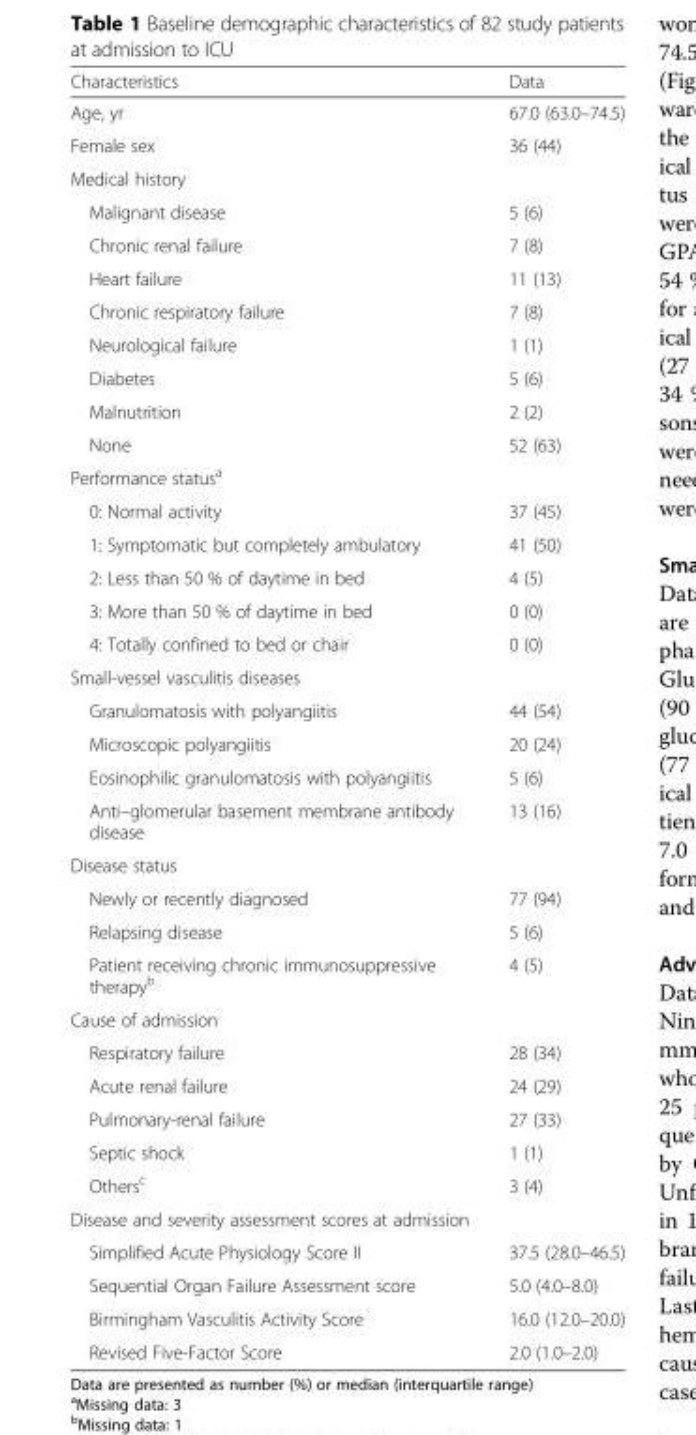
<table><thead><tr><td>Characteristics</td><td>Data</td></tr></thead><tbody><tr><td>Age, yr</td><td>67.0 (63.0–74.5)</td></tr><tr><td>Female sex</td><td>36 (44)</td></tr><tr><td colspan="2">Medical history</td></tr><tr><td>Malignant disease</td><td>5 (6)</td></tr><tr><td>Chronic renal failure</td><td>7 (8)</td></tr><tr><td>Heart failure</td><td>11 (13)</td></tr><tr><td>Chronic respiratory failure</td><td>7 (8)</td></tr><tr><td>Neurological failure</td><td>1 (1)</td></tr><tr><td>Diabetes</td><td>5 (6)</td></tr><tr><td>Malnutrition</td><td>2 (2)</td></tr><tr><td>None</td><td>52 (63)</td></tr><tr><td colspan="2">Performance status<sup>a</sup></td></tr><tr><td>0: Normal activity</td><td>37 (45)</td></tr><tr><td>1: Symptomatic but completely ambulatory</td><td>41 (50)</td></tr><tr><td>2: Less than 50 % of daytime in bed</td><td>4 (5)</td></tr><tr><td>3: More than 50 % of daytime in bed</td><td>0 (0)</td></tr><tr><td>4: Totally confined to bed or chair</td><td>0 (0)</td></tr><tr><td colspan="2">Small-vessel vasculitis diseases</td></tr><tr><td>Granulomatosis with polyangiitis</td><td>44 (54)</td></tr><tr><td>Microscopic polyangiitis</td><td>20 (24)</td></tr><tr><td>Eosinophilic granulomatosis with polyangiitis</td><td>5 (6)</td></tr><tr><td>Anti–glomerular basement membrane antibody disease</td><td>13 (16)</td></tr><tr><td colspan="2">Disease status</td></tr><tr><td>Newly or recently diagnosed</td><td>77 (94)</td></tr><tr><td>Relapsing disease</td><td>5 (6)</td></tr><tr><td>Patient receiving chronic immunosuppressive therapy<sup>b</sup></td><td>4 (5)</td></tr><tr><td colspan="2">Cause of admission</td></tr><tr><td>Respiratory failure</td><td>28 (34)</td></tr><tr><td>Acute renal failure</td><td>24 (29)</td></tr><tr><td>Pulmonary-renal failure</td><td>27 (33)</td></tr><tr><td>Septic shock</td><td>1 (1)</td></tr><tr><td>Others<sup>c</sup></td><td>3 (4)</td></tr><tr><td colspan="2">Disease and severity assessment scores at admission</td></tr><tr><td>Simplified Acute Physiology Score II</td><td>37.5 (28.0–46.5)</td></tr><tr><td>Sequential Organ Failure Assessment score</td><td>5.0 (4.0–8.0)</td></tr><tr><td>Birmingham Vasculitis Activity Score</td><td>16.0 (12.0–20.0)</td></tr><tr><td>Revised Five-Factor Score</td><td>2.0 (1.0–2.0)</td></tr></tbody></table>